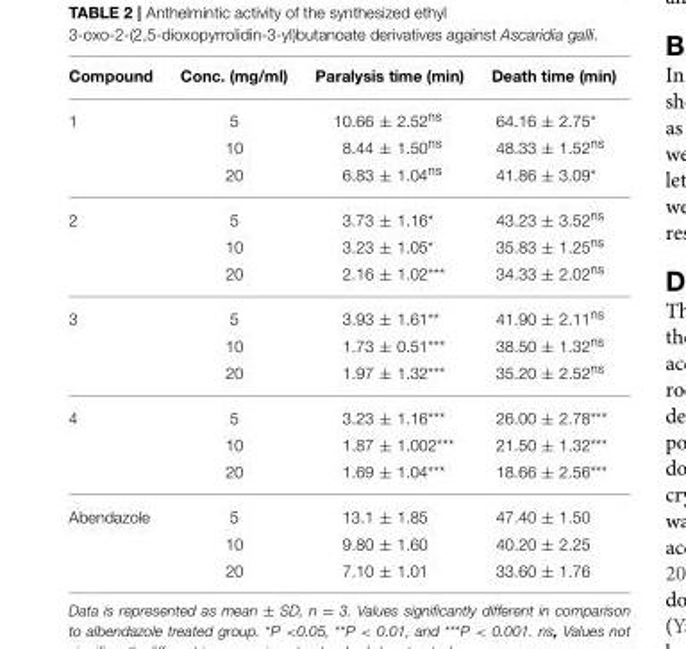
<table><thead><tr><td>Compound</td><td>Conc. (mg/ml)</td><td>Paralysis time (min)</td><td>Death time (min)</td></tr></thead><tbody><tr><td rowspan="3">1</td><td>5</td><td>10.66 ± 2.52<sup>ns</sup></td><td>64.16 ± 2.75*</td></tr><tr><td>10</td><td>8.44 ± 1.50<sup>ns</sup></td><td>48.33 ± 1.52<sup>ns</sup></td></tr><tr><td>20</td><td>6.83 ± 1.04<sup>ns</sup></td><td>41.86 ± 3.09*</td></tr><tr><td rowspan="3">2</td><td>5</td><td>3.73 ± 1.16*</td><td>43.23 ± 3.52<sup>ns</sup></td></tr><tr><td>10</td><td>3.23 ± 1.05*</td><td>35.83 ± 1.25<sup>ns</sup></td></tr><tr><td>20</td><td>2.16 ± 1.02***</td><td>34.33 ± 2.02<sup>ns</sup></td></tr><tr><td rowspan="3">3</td><td>5</td><td>3.93 ± 1.61**</td><td>41.90 ± 2.11<sup>ns</sup></td></tr><tr><td>10</td><td>1.73 ± 0.51***</td><td>38.50 ± 1.32<sup>ns</sup></td></tr><tr><td>20</td><td>1.97 ± 1.32***</td><td>35.20 ± 2.52<sup>ns</sup></td></tr><tr><td rowspan="3">4</td><td>5</td><td>3.23 ± 1.16***</td><td>26.00 ± 2.78***</td></tr><tr><td>10</td><td>1.87 ± 1.002***</td><td>21.50 ± 1.32***</td></tr><tr><td>20</td><td>1.69 ± 1.04***</td><td>18.66 ± 2.56***</td></tr><tr><td rowspan="3">Abendazole</td><td>5</td><td>13.1 ± 1.85</td><td>47.40 ± 1.50</td></tr><tr><td>10</td><td>9.80 ± 1.60</td><td>40.20 ± 2.25</td></tr><tr><td>20</td><td>7.10 ± 1.01</td><td>33.60 ± 1.76</td></tr></tbody></table>